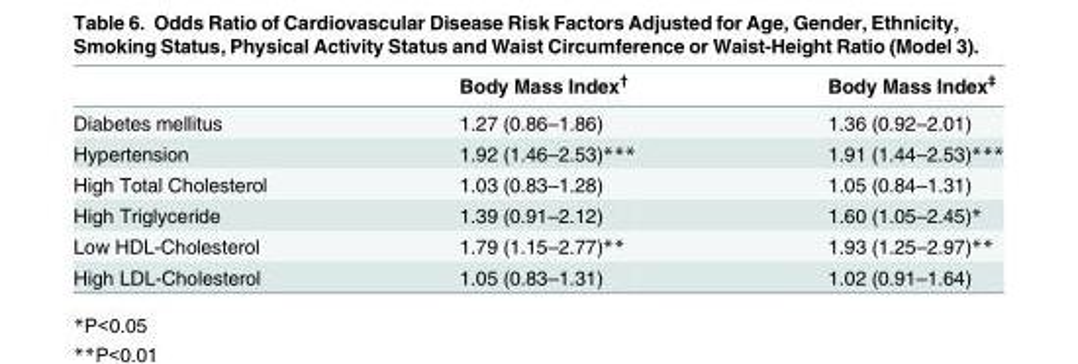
<table><thead><tr><td></td><td>Body Mass Index<sup>†</sup></td><td>Body Mass Index<sup>‡</sup></td></tr></thead><tbody><tr><td>Diabetes mellitus</td><td>1.27 (0.86–1.86)</td><td>1.36 (0.92–2.01)</td></tr><tr><td>Hypertension</td><td>1.92 (1.46–2.53)***</td><td>1.91 (1.44–2.53)***</td></tr><tr><td>High Total Cholesterol</td><td>1.03 (0.83–1.28)</td><td>1.05 (0.84–1.31)</td></tr><tr><td>High Triglyceride</td><td>1.39 (0.91–2.12)</td><td>1.60 (1.05–2.45)*</td></tr><tr><td>Low HDL-Cholesterol</td><td>1.79 (1.15–2.77)**</td><td>1.93 (1.25–2.97)**</td></tr><tr><td>High LDL-Cholesterol</td><td>1.05 (0.83–1.31)</td><td>1.02 (0.91–1.64)</td></tr></tbody></table>